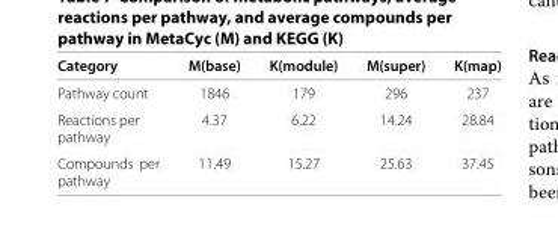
<table><thead><tr><td>Category</td><td>M(base)</td><td>K(module)</td><td>M(super)</td><td>K(map)</td></tr></thead><tbody><tr><td>Pathway count</td><td>1846</td><td>179</td><td>296</td><td>237</td></tr><tr><td>Reactions per pathway</td><td>4.37</td><td>6.22</td><td>14.24</td><td>28.84</td></tr><tr><td>Compounds per pathway</td><td>11.49</td><td>15.27</td><td>25.63</td><td>37.45</td></tr></tbody></table>